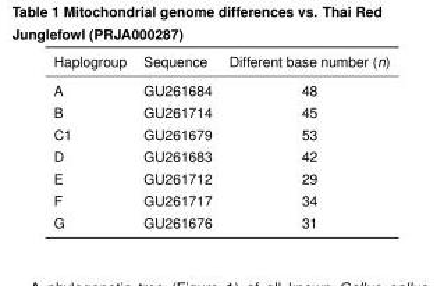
<table><thead><tr><td>Haplogroup</td><td>Sequence</td><td>Different base number (n)</td></tr></thead><tbody><tr><td>A</td><td>GU261684</td><td>48</td></tr><tr><td>B</td><td>GU261714</td><td>45</td></tr><tr><td>C1</td><td>GU261679</td><td>53</td></tr><tr><td>D</td><td>GU261683</td><td>42</td></tr><tr><td>E</td><td>GU261712</td><td>29</td></tr><tr><td>F</td><td>GU261717</td><td>34</td></tr><tr><td>G</td><td>GU261676</td><td>31</td></tr></tbody></table>